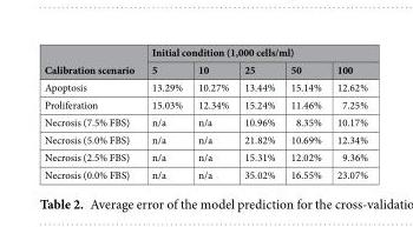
<table><thead><tr><td rowspan="2">Calibration scenario</td><td colspan="5">Initial condition (1,000 cells/ml)</td></tr><tr><td>5</td><td>10</td><td>25</td><td>50</td><td>100</td></tr></thead><tbody><tr><td>Apoptosis</td><td>13.29%</td><td>10.27%</td><td>13.44%</td><td>15.14%</td><td>12.62%</td></tr><tr><td>Proliferation</td><td>15.03%</td><td>12.34%</td><td>15.24%</td><td>11.46%</td><td>7.25%</td></tr><tr><td>Necrosis (7.5% FBS)</td><td>n/a</td><td>n/a</td><td>10.96%</td><td>8.35%</td><td>10.17%</td></tr><tr><td>Necrosis (5.0% FBS)</td><td>n/a</td><td>n/a</td><td>21.82%</td><td>10.69%</td><td>12.34%</td></tr><tr><td>Necrosis (2.5% FBS)</td><td>n/a</td><td>n/a</td><td>15.31%</td><td>12.02%</td><td>9.36%</td></tr><tr><td>Necrosis (0.0% FBS)</td><td>n/a</td><td>n/a</td><td>35.02%</td><td>16.55%</td><td>23.07%</td></tr></tbody></table>